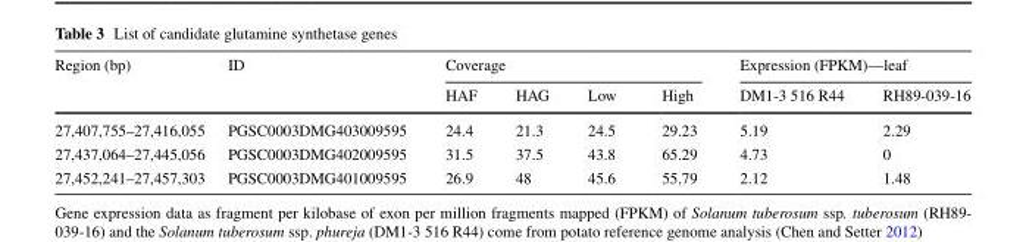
<table><thead><tr><td rowspan="2">Region (bp)</td><td rowspan="2">ID</td><td colspan="4">Coverage</td><td colspan="2">Expression (FPKM)—leaf</td></tr><tr><td>HAF</td><td>HAG</td><td>Low</td><td>High</td><td>DM1-3 516 R44</td><td>RH89-039-16</td></tr></thead><tbody><tr><td>27,407,755–27,416,055</td><td>PGSC0003DMG403009595</td><td>24.4</td><td>21.3</td><td>24.5</td><td>29.23</td><td>5.19</td><td>2.29</td></tr><tr><td>27,437,064–27,445,056</td><td>PGSC0003DMG402009595</td><td>31.5</td><td>37.5</td><td>43.8</td><td>65.29</td><td>4.73</td><td>0</td></tr><tr><td>27,452,241–27,457,303</td><td>PGSC0003DMG401009595</td><td>26.9</td><td>48</td><td>45.6</td><td>55.79</td><td>2.12</td><td>1.48</td></tr></tbody></table>